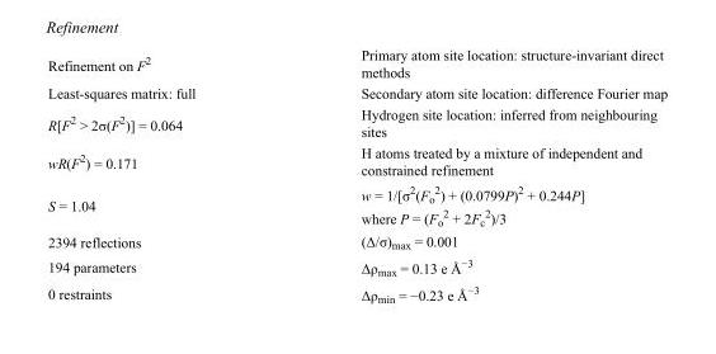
<table><tbody><tr><td>Refinement on F<sup>2</sup></td><td>Primary atom site location: structure-invariant direct methods</td></tr><tr><td>Least-squares matrix: full</td><td>Secondary atom site location: difference Fourier map</td></tr><tr><td>R[F<sup>2</sup> &gt; 2σ(F<sup>2</sup>)] = 0.064</td><td>Hydrogen site location: inferred from neighbouring sites</td></tr><tr><td>wR(F<sup>2</sup>) = 0.171</td><td>H atoms treated by a mixture of independent and constrained refinement</td></tr><tr><td>S = 1.04</td><td>w = 1/[σ<sup>2</sup>(F<sub>o</sub> <sup>2</sup>) + (0.0799P)<sup>2</sup> + 0.244P] where P = (F<sub>o</sub> <sup>2</sup> + 2F<sub>c</sub> <sup>2</sup>)/3</td></tr><tr><td>2394 reflections</td><td>(Δ/σ)<sub>max</sub> = 0.001</td></tr><tr><td>194 parameters</td><td>Δρ<sub>max</sub> = 0.13 e Å<sup>−3</sup></td></tr><tr><td>0 restraints</td><td>Δρ<sub>min</sub> = −0.23 e Å<sup>−3</sup></td></tr></tbody></table>